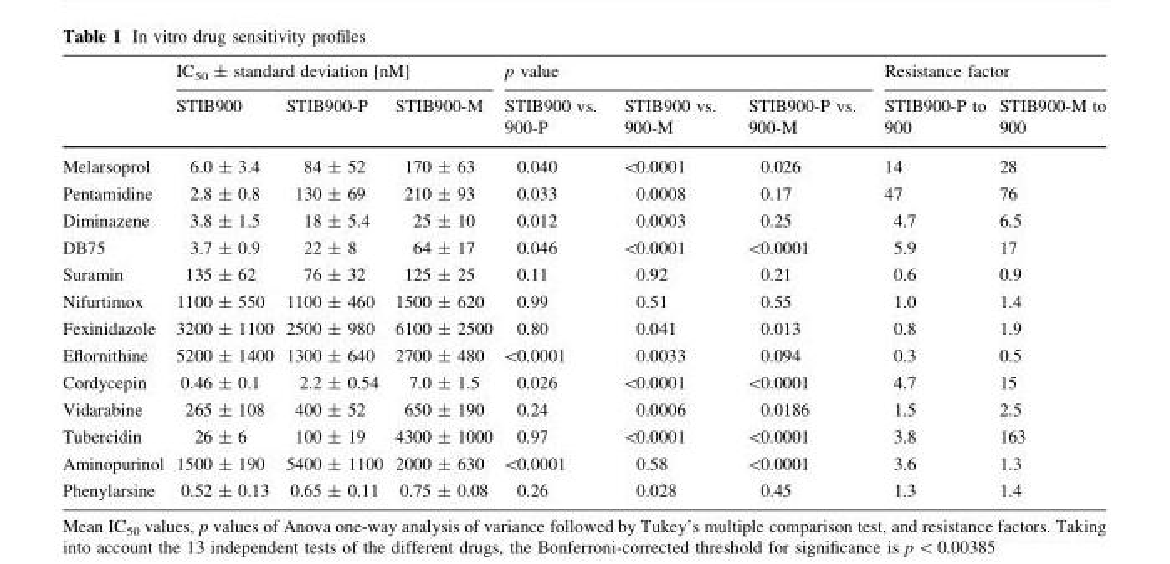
<table><thead><tr><td rowspan="2"></td><td colspan="3">IC<sub>50</sub> ± standard deviation [nM]</td><td colspan="3">p value</td><td colspan="2">Resistance factor</td></tr><tr><td>STIB900</td><td>STIB900-P</td><td>STIB900-M</td><td>STIB900 vs. 900-P</td><td>STIB900 vs. 900-M</td><td>STIB900-P vs. 900-M</td><td>STIB900-P to 900</td><td>STIB900-M to 900</td></tr></thead><tbody><tr><td>Melarsoprol</td><td>6.0 ± 3.4</td><td>84 ± 52</td><td>170 ± 63</td><td>0.040</td><td>&lt;0.0001</td><td>0.026</td><td>14</td><td>28</td></tr><tr><td>Pentamidine</td><td>2.8 ± 0.8</td><td>130 ± 69</td><td>210 ± 93</td><td>0.033</td><td>0.0008</td><td>0.17</td><td>47</td><td>76</td></tr><tr><td>Diminazene</td><td>3.8 ± 1.5</td><td>18 ± 5.4</td><td>25 ± 10</td><td>0.012</td><td>0.0003</td><td>0.25</td><td>4.7</td><td>6.5</td></tr><tr><td>DB75</td><td>3.7 ± 0.9</td><td>22 ± 8</td><td>64 ± 17</td><td>0.046</td><td>&lt;0.0001</td><td>&lt;0.0001</td><td>5.9</td><td>17</td></tr><tr><td>Suramin</td><td>135 ± 62</td><td>76 ± 32</td><td>125 ± 25</td><td>0.11</td><td>0.92</td><td>0.21</td><td>0.6</td><td>0.9</td></tr><tr><td>Nifurtimox</td><td>1100 ± 550</td><td>1100 ± 460</td><td>1500 ± 620</td><td>0.99</td><td>0.51</td><td>0.55</td><td>1.0</td><td>1.4</td></tr><tr><td>Fexinidazole</td><td>3200 ± 1100</td><td>2500 ± 980</td><td>6100 ± 2500</td><td>0.80</td><td>0.041</td><td>0.013</td><td>0.8</td><td>1.9</td></tr><tr><td>Eflornithine</td><td>5200 ± 1400</td><td>1300 ± 640</td><td>2700 ± 480</td><td>&lt;0.0001</td><td>0.0033</td><td>0.094</td><td>0.3</td><td>0.5</td></tr><tr><td>Cordycepin</td><td>0.46 ± 0.1</td><td>2.2 ± 0.54</td><td>7.0 ± 1.5</td><td>0.026</td><td>&lt;0.0001</td><td>&lt;0.0001</td><td>4.7</td><td>15</td></tr><tr><td>Vidarabine</td><td>265 ± 108</td><td>400 ± 52</td><td>650 ± 190</td><td>0.24</td><td>0.0006</td><td>0.0186</td><td>1.5</td><td>2.5</td></tr><tr><td>Tubercidin</td><td>26 ± 6</td><td>100 ± 19</td><td>4300 ± 1000</td><td>0.97</td><td>&lt;0.0001</td><td>&lt;0.0001</td><td>3.8</td><td>163</td></tr><tr><td>Aminopurinol</td><td>1500 ± 190</td><td>5400 ± 1100</td><td>2000 ± 630</td><td>&lt;0.0001</td><td>0.58</td><td>&lt;0.0001</td><td>3.6</td><td>1.3</td></tr><tr><td>Phenylarsine</td><td>0.52 ± 0.13</td><td>0.65 ± 0.11</td><td>0.75 ± 0.08</td><td>0.26</td><td>0.028</td><td>0.45</td><td>1.3</td><td>1.4</td></tr></tbody></table>